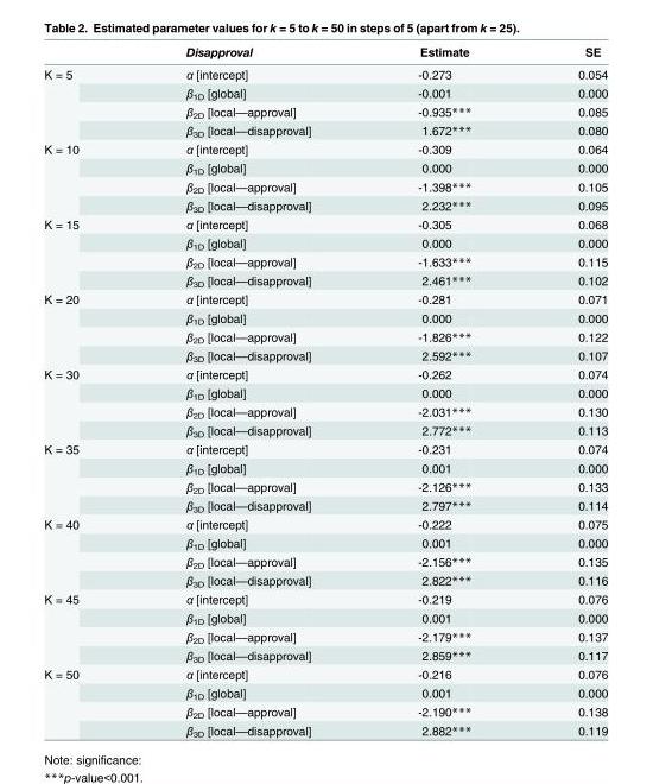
<table><thead><tr><td></td><td>Disapproval</td><td>Estimate</td><td>SE</td></tr></thead><tbody><tr><td rowspan="4">K = 5</td><td>α [intercept]</td><td>-0.273</td><td>0.054</td></tr><tr><td>β<sub>1D</sub> [global]</td><td>-0.001</td><td>0.000</td></tr><tr><td>β<sub>2D</sub> [local—approval]</td><td>-0.935***</td><td>0.085</td></tr><tr><td>β<sub>3D</sub> [local—disapproval]</td><td>1.672***</td><td>0.080</td></tr><tr><td rowspan="4">K = 10</td><td>α [intercept]</td><td>-0.309</td><td>0.064</td></tr><tr><td>β<sub>1D</sub> [global]</td><td>0.000</td><td>0.000</td></tr><tr><td>β<sub>2D</sub> [local—approval]</td><td>-1.398***</td><td>0.105</td></tr><tr><td>β<sub>3D</sub> [local—disapproval]</td><td>2.232***</td><td>0.095</td></tr><tr><td rowspan="4">K = 15</td><td>α [intercept]</td><td>-0.305</td><td>0.068</td></tr><tr><td>β<sub>1D</sub> [global]</td><td>0.000</td><td>0.000</td></tr><tr><td>β<sub>2D</sub> [local—approval]</td><td>-1.633***</td><td>0.115</td></tr><tr><td>β<sub>3D</sub> [local—disapproval]</td><td>2.461***</td><td>0.102</td></tr><tr><td rowspan="4">K = 20</td><td>α [intercept]</td><td>-0.281</td><td>0.071</td></tr><tr><td>β<sub>1D</sub> [global]</td><td>0.000</td><td>0.000</td></tr><tr><td>β<sub>2D</sub> [local—approval]</td><td>-1.826***</td><td>0.122</td></tr><tr><td>β<sub>3D</sub> [local—disapproval]</td><td>2.592***</td><td>0.107</td></tr><tr><td rowspan="4">K = 30</td><td>α [intercept]</td><td>-0.262</td><td>0.074</td></tr><tr><td>β<sub>1D</sub> [global]</td><td>0.000</td><td>0.000</td></tr><tr><td>β<sub>2D</sub> [local—approval]</td><td>-2.031***</td><td>0.130</td></tr><tr><td>β<sub>3D</sub> [local—disapproval]</td><td>2.772***</td><td>0.113</td></tr><tr><td rowspan="4">K = 35</td><td>α [intercept]</td><td>-0.231</td><td>0.074</td></tr><tr><td>β<sub>1D</sub> [global]</td><td>0.001</td><td>0.000</td></tr><tr><td>β<sub>2D</sub> [local—approval]</td><td>-2.126***</td><td>0.133</td></tr><tr><td>β<sub>3D</sub> [local—disapproval]</td><td>2.797***</td><td>0.114</td></tr><tr><td rowspan="4">K = 40</td><td>α [intercept]</td><td>-0.222</td><td>0.075</td></tr><tr><td>β<sub>1D</sub> [global]</td><td>0.001</td><td>0.000</td></tr><tr><td>β<sub>2D</sub> [local—approval]</td><td>-2.156***</td><td>0.135</td></tr><tr><td>β<sub>3D</sub> [local—disapproval]</td><td>2.822***</td><td>0.116</td></tr><tr><td rowspan="4">K = 45</td><td>α [intercept]</td><td>-0.219</td><td>0.076</td></tr><tr><td>β<sub>1D</sub> [global]</td><td>0.001</td><td>0.000</td></tr><tr><td>β<sub>2D</sub> [local—approval]</td><td>-2.179***</td><td>0.137</td></tr><tr><td>β<sub>3D</sub> [local—disapproval]</td><td>2.859***</td><td>0.117</td></tr><tr><td rowspan="4">K = 50</td><td>α [intercept]</td><td>-0.216</td><td>0.076</td></tr><tr><td>β<sub>1D</sub> [global]</td><td>0.001</td><td>0.000</td></tr><tr><td>β<sub>2D</sub> [local—approval]</td><td>-2.190***</td><td>0.138</td></tr><tr><td>β<sub>3D</sub> [local—disapproval]</td><td>2.882***</td><td>0.119</td></tr></tbody></table>